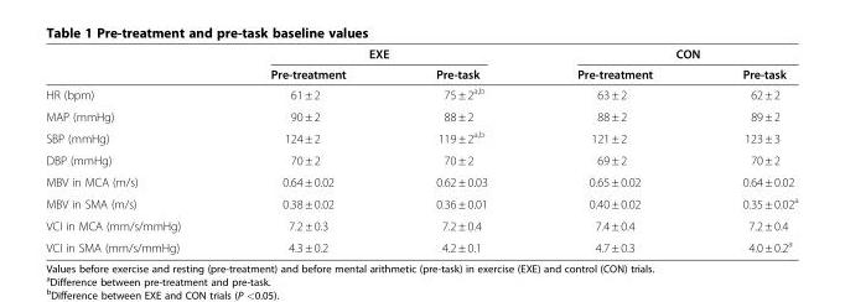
<table><thead><tr><td rowspan="2"></td><td colspan="2">EXE</td><td colspan="2">CON</td></tr><tr><td>Pre-treatment</td><td>Pre-task</td><td>Pre-treatment</td><td>Pre-task</td></tr></thead><tbody><tr><td>HR (bpm)</td><td>61 ± 2</td><td>75 ± 2<sup>a,b</sup></td><td>63 ± 2</td><td>62 ± 2</td></tr><tr><td>MAP (mmHg)</td><td>90 ± 2</td><td>88 ± 2</td><td>88 ± 2</td><td>89 ± 2</td></tr><tr><td>SBP (mmHg)</td><td>124 ± 2</td><td>119 ± 2<sup>a,b</sup></td><td>121 ± 2</td><td>123 ± 3</td></tr><tr><td>DBP (mmHg)</td><td>70 ± 2</td><td>70 ± 2</td><td>69 ± 2</td><td>70 ± 2</td></tr><tr><td>MBV in MCA (m/s)</td><td>0.64 ± 0.02</td><td>0.62 ± 0.03</td><td>0.65 ± 0.02</td><td>0.64 ± 0.02</td></tr><tr><td>MBV in SMA (m/s)</td><td>0.38 ± 0.02</td><td>0.36 ± 0.01</td><td>0.40 ± 0.02</td><td>0.35 ± 0.02<sup>a</sup></td></tr><tr><td>VCI in MCA (mm/s/mmHg)</td><td>7.2 ± 0.3</td><td>7.2 ± 0.4</td><td>7.4 ± 0.4</td><td>7.2 ± 0.4</td></tr><tr><td>VCI in SMA (mm/s/mmHg)</td><td>4.3 ± 0.2</td><td>4.2 ± 0.1</td><td>4.7 ± 0.3</td><td>4.0 ± 0.2<sup>a</sup></td></tr></tbody></table>